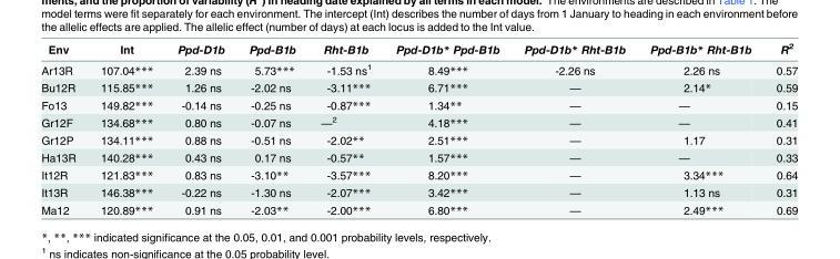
<table><thead><tr><td>Env</td><td>Int</td><td>Ppd-D1b</td><td>Ppd-B1b</td><td>Rht-B1b</td><td>Ppd-D1b* Ppd-B1b</td><td>Ppd-D1b* Rht-B1b</td><td>Ppd-B1b* Rht-B1b</td><td>R<sup>2</sup></td></tr></thead><tbody><tr><td>Ar13R</td><td>107.04***</td><td>2.39 ns</td><td>5.73***</td><td>-1.53 ns<sup>1</sup></td><td>8.49***</td><td>-2.26 ns</td><td>2.26 ns</td><td>0.57</td></tr><tr><td>Bu12R</td><td>115.85***</td><td>1.26 ns</td><td>-2.02 ns</td><td>-3.11***</td><td>6.71***</td><td>—</td><td>2.14*</td><td>0.59</td></tr><tr><td>Fo13</td><td>149.82***</td><td>-0.14 ns</td><td>-0.25 ns</td><td>-0.87***</td><td>1.34**</td><td>—</td><td>—</td><td>0.15</td></tr><tr><td>Gr12F</td><td>134.68***</td><td>0.80 ns</td><td>-0.07 ns</td><td>—<sup>2</sup></td><td>4.18***</td><td>—</td><td>—</td><td>0.41</td></tr><tr><td>Gr12P</td><td>134.11***</td><td>0.88 ns</td><td>-0.51 ns</td><td>-2.02**</td><td>2.51***</td><td>—</td><td>1.17</td><td>0.31</td></tr><tr><td>Ha13R</td><td>140.28***</td><td>0.43 ns</td><td>0.17 ns</td><td>-0.57**</td><td>1.57***</td><td>—</td><td>—</td><td>0.33</td></tr><tr><td>It12R</td><td>121.83***</td><td>0.83 ns</td><td>-3.10**</td><td>-3.57***</td><td>8.20***</td><td>—</td><td>3.34***</td><td>0.64</td></tr><tr><td>It13R</td><td>146.38***</td><td>-0.22 ns</td><td>-1.30 ns</td><td>-2.07***</td><td>3.42***</td><td>—</td><td>1.13 ns</td><td>0.31</td></tr><tr><td>Ma12</td><td>120.89***</td><td>0.91 ns</td><td>-2.03**</td><td>-2.00***</td><td>6.80***</td><td>—</td><td>2.49***</td><td>0.69</td></tr></tbody></table>